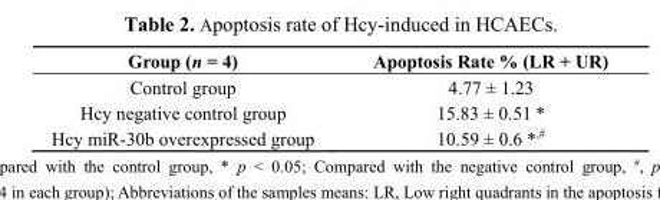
<table><thead><tr><td>Group (n = 4)</td><td>Apoptosis Rate % (LR + UR)</td></tr></thead><tbody><tr><td>Control group</td><td>4.77 ± 1.23</td></tr><tr><td>Hcy negative control group</td><td>15.83 ± 0.51 *</td></tr><tr><td>Hcy miR-30b overexpressed group</td><td>10.59 ± 0.6 *<sup>,#</sup></td></tr></tbody></table>